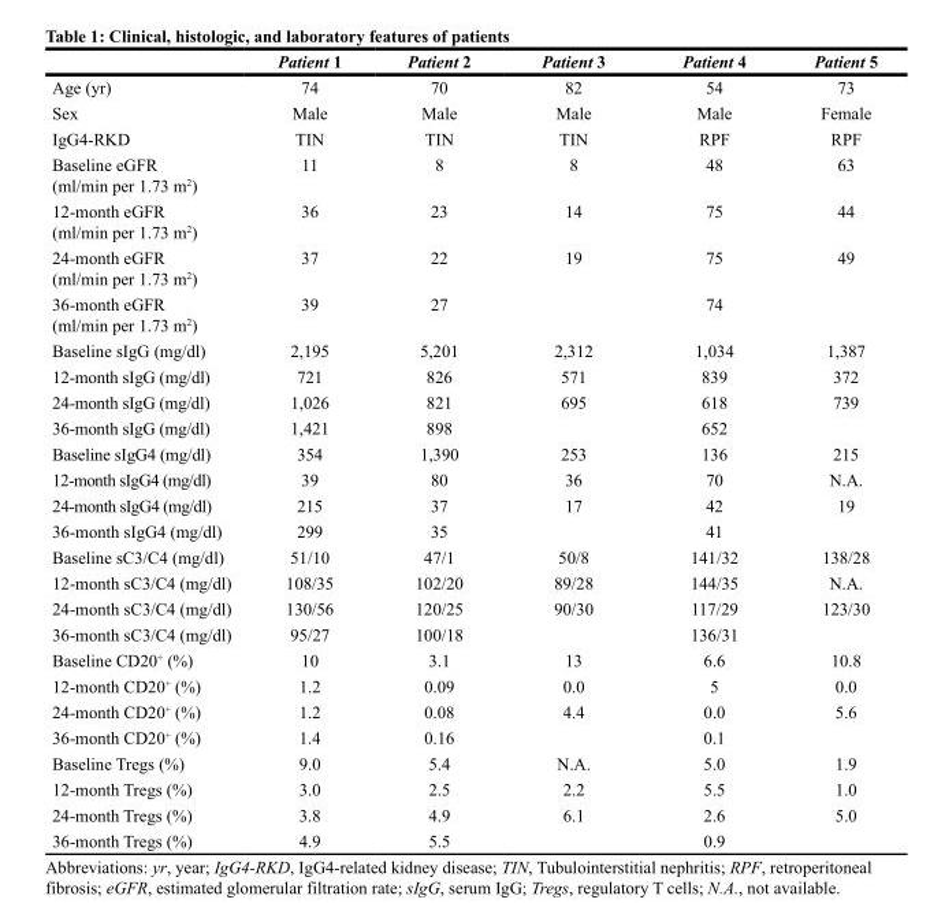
<table><thead><tr><td></td><td>Patient 1</td><td>Patient 2</td><td>Patient 3</td><td>Patient 4</td><td>Patient 5</td></tr></thead><tbody><tr><td>Age (yr)</td><td>74</td><td>70</td><td>82</td><td>54</td><td>73</td></tr><tr><td>Sex</td><td>Male</td><td>Male</td><td>Male</td><td>Male</td><td>Female</td></tr><tr><td>IgG4-RKD</td><td>TIN</td><td>TIN</td><td>TIN</td><td>RPF</td><td>RPF</td></tr><tr><td>Baseline eGFR (ml/min per 1.73 m<sup>2</sup>)</td><td>11</td><td>8</td><td>8</td><td>48</td><td>63</td></tr><tr><td>12-month eGFR (ml/min per 1.73 m<sup>2</sup>)</td><td>36</td><td>23</td><td>14</td><td>75</td><td>44</td></tr><tr><td>24-month eGFR (ml/min per 1.73 m<sup>2</sup>)</td><td>37</td><td>22</td><td>19</td><td>75</td><td>49</td></tr><tr><td>36-month eGFR (ml/min per 1.73 m<sup>2</sup>)</td><td>39</td><td>27</td><td></td><td>74</td><td></td></tr><tr><td>Baseline sIgG (mg/dl)</td><td>2,195</td><td>5,201</td><td>2,312</td><td>1,034</td><td>1,387</td></tr><tr><td>12-month sIgG (mg/dl)</td><td>721</td><td>826</td><td>571</td><td>839</td><td>372</td></tr><tr><td>24-month sIgG (mg/dl)</td><td>1,026</td><td>821</td><td>695</td><td>618</td><td>739</td></tr><tr><td>36-month sIgG (mg/dl)</td><td>1,421</td><td>898</td><td></td><td>652</td><td></td></tr><tr><td>Baseline sIgG4 (mg/dl)</td><td>354</td><td>1,390</td><td>253</td><td>136</td><td>215</td></tr><tr><td>12-month sIgG4 (mg/dl)</td><td>39</td><td>80</td><td>36</td><td>70</td><td>N.A.</td></tr><tr><td>24-month sIgG4 (mg/dl)</td><td>215</td><td>37</td><td>17</td><td>42</td><td>19</td></tr><tr><td>36-month sIgG4 (mg/dl)</td><td>299</td><td>35</td><td></td><td>41</td><td></td></tr><tr><td>Baseline sC3/C4 (mg/dl)</td><td>51/10</td><td>47/1</td><td>50/8</td><td>141/32</td><td>138/28</td></tr><tr><td>12-month sC3/C4 (mg/dl)</td><td>108/35</td><td>102/20</td><td>89/28</td><td>144/35</td><td>N.A.</td></tr><tr><td>24-month sC3/C4 (mg/dl)</td><td>130/56</td><td>120/25</td><td>90/30</td><td>117/29</td><td>123/30</td></tr><tr><td>36-month sC3/C4 (mg/dl)</td><td>95/27</td><td>100/18</td><td></td><td>136/31</td><td></td></tr><tr><td>Baseline CD20<sup>+</sup> (%)</td><td>10</td><td>3.1</td><td>13</td><td>6.6</td><td>10.8</td></tr><tr><td>12-month CD20<sup>+</sup> (%)</td><td>1.2</td><td>0.09</td><td>0.0</td><td>5</td><td>0.0</td></tr><tr><td>24-month CD20<sup>+</sup> (%)</td><td>1.2</td><td>0.08</td><td>4.4</td><td>0.0</td><td>5.6</td></tr><tr><td>36-month CD20<sup>+</sup> (%)</td><td>1.4</td><td>0.16</td><td></td><td>0.1</td><td></td></tr><tr><td>Baseline Tregs (%)</td><td>9.0</td><td>5.4</td><td>N.A.</td><td>5.0</td><td>1.9</td></tr><tr><td>12-month Tregs (%)</td><td>3.0</td><td>2.5</td><td>2.2</td><td>5.5</td><td>1.0</td></tr><tr><td>24-month Tregs (%)</td><td>3.8</td><td>4.9</td><td>6.1</td><td>2.6</td><td>5.0</td></tr><tr><td>36-month Tregs (%)</td><td>4.9</td><td>5.5</td><td></td><td>0.9</td><td></td></tr></tbody></table>